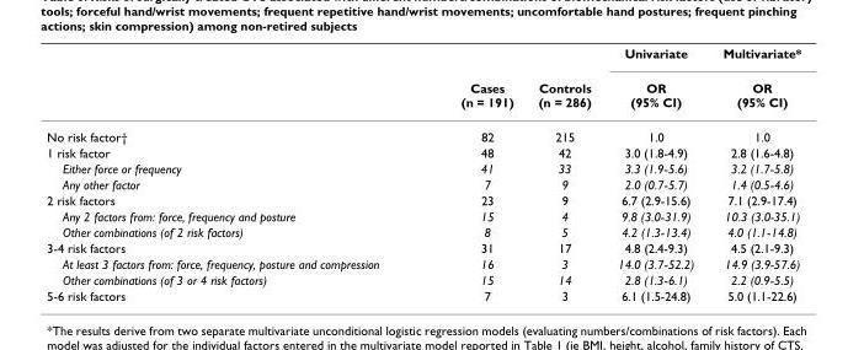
<table><thead><tr><td rowspan="2"></td><td rowspan="2">Cases (n = 191)</td><td rowspan="2">Controls (n = 286)</td><td rowspan="2">Univariate OR (95% CI)</td><td rowspan="2">Multivariate* OR (95% CI)</td></tr><tr></tr></thead><tbody><tr><td>No risk factor†</td><td>82</td><td>215</td><td>1.0</td><td>1.0</td></tr><tr><td>1 risk factor</td><td>48</td><td>42</td><td>3.0 (1.8-4.9)</td><td>2.8 (1.6-4.8)</td></tr><tr><td>Either force or frequency</td><td>41</td><td>33</td><td>3.3 (1.9-5.6)</td><td>3.2 (1.7-5.8)</td></tr><tr><td>Any other factor</td><td>7</td><td>9</td><td>2.0 (0.7-5.7)</td><td>1.4 (0.5-4.6)</td></tr><tr><td>2 risk factors</td><td>23</td><td>9</td><td>6.7 (2.9-15.6)</td><td>7.1 (2.9-17.4)</td></tr><tr><td>Any 2 factors from: force, frequency and posture</td><td>15</td><td>4</td><td>9.8 (3.0-31.9)</td><td>10.3 (3.0-35.1)</td></tr><tr><td>Other combinations (of 2 risk factors)</td><td>8</td><td>5</td><td>4.2 (1.3-13.4)</td><td>4.0 (1.1-14.8)</td></tr><tr><td>3-4 risk factors</td><td>31</td><td>17</td><td>4.8 (2.4-9.3)</td><td>4.5 (2.1-9.3)</td></tr><tr><td>At least 3 factors from: force, frequency, posture and compression</td><td>16</td><td>3</td><td>14.0 (3.7-52.2)</td><td>14.9 (3.9-57.6)</td></tr><tr><td>Other combinations (of 3 or 4 risk factors)</td><td>15</td><td>14</td><td>2.8 (1.3-6.1)</td><td>2.2 (0.9-5.5)</td></tr><tr><td>5-6 risk factors</td><td>7</td><td>3</td><td>6.1 (1.5-24.8)</td><td>5.0 (1.1-22.6)</td></tr></tbody></table>